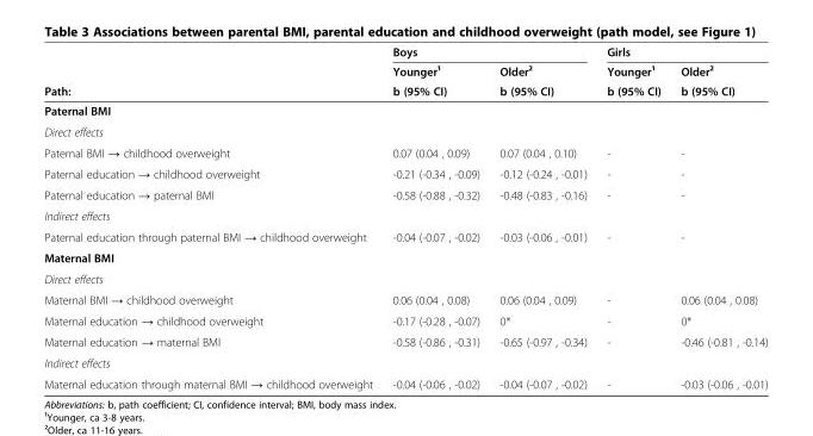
<table><thead><tr><td rowspan="3">Path:</td><td colspan="2">Boys</td><td colspan="2">Girls</td></tr><tr><td rowspan="2">Younger¹ b (95% CI)</td><td rowspan="2">Older² b (95% CI)</td><td rowspan="2">Younger¹ b (95% CI)</td><td rowspan="2">Older² b (95% CI)</td></tr><tr></tr></thead><tbody><tr><td colspan="5">Paternal BMI</td></tr><tr><td>Direct effects</td><td rowspan="2">0.07 (0.04 , 0.09)</td><td rowspan="2">0.07 (0.04 , 0.10)</td><td rowspan="2">-</td><td rowspan="2">-</td></tr><tr><td>Paternal BMI → childhood overweight</td></tr><tr><td>Paternal education → childhood overweight</td><td>-0.21 (-0.34 , -0.09)</td><td>-0.12 (-0.24 , -0.01)</td><td>-</td><td>-</td></tr><tr><td>Paternal education → paternal BMI</td><td>-0.58 (-0.88 , -0.32)</td><td>-0.48 (-0.83 , -0.16)</td><td>-</td><td>-</td></tr><tr><td>Indirect effects</td><td rowspan="2">-0.04 (-0.07 , -0.02)</td><td rowspan="2">-0.03 (-0.06 , -0.01)</td><td rowspan="2">-</td><td rowspan="2">-</td></tr><tr><td>Paternal education through paternal BMI → childhood overweight</td></tr><tr><td colspan="5">Maternal BMI</td></tr><tr><td>Direct effects</td><td rowspan="2">0.06 (0.04 , 0.08)</td><td rowspan="2">0.06 (0.04 , 0.09)</td><td rowspan="2">-</td><td rowspan="2">0.06 (0.04 , 0.08)</td></tr><tr><td>Maternal BMI → childhood overweight</td></tr><tr><td>Maternal education → childhood overweight</td><td>-0.17 (-0.28 , -0.07)</td><td>0*</td><td>-</td><td>0*</td></tr><tr><td>Maternal education → maternal BMI</td><td>-0.58 (-0.86 , -0.31)</td><td>-0.65 (-0.97 , -0.34)</td><td>-</td><td>-0.46 (-0.81 , -0.14)</td></tr><tr><td>Indirect effects</td><td rowspan="2">-0.04 (-0.06 , -0.02)</td><td rowspan="2">-0.04 (-0.07 , -0.02)</td><td rowspan="2">-</td><td rowspan="2">-0.03 (-0.06 , -0.01)</td></tr><tr><td>Maternal education through maternal BMI → childhood overweight</td></tr></tbody></table>